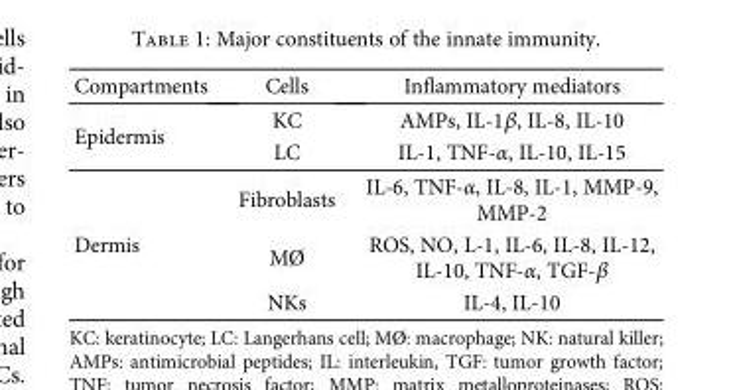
<table><thead><tr><td>Compartments</td><td>Cells</td><td>Inflammatory mediators</td></tr></thead><tbody><tr><td rowspan="2">Epidermis</td><td>KC</td><td>AMPs, IL-1β, IL-8, IL-10</td></tr><tr><td>LC</td><td>IL-1, TNF-α, IL-10, IL-15</td></tr><tr><td rowspan="3">Dermis</td><td>Fibroblasts</td><td>IL-6, TNF-α, IL-8, IL-1, MMP-9, MMP-2</td></tr><tr><td>MØ</td><td>ROS, NO, L-1, IL-6, IL-8, IL-12, IL-10, TNF-α, TGF-β</td></tr><tr><td>NKs</td><td>IL-4, IL-10</td></tr></tbody></table>